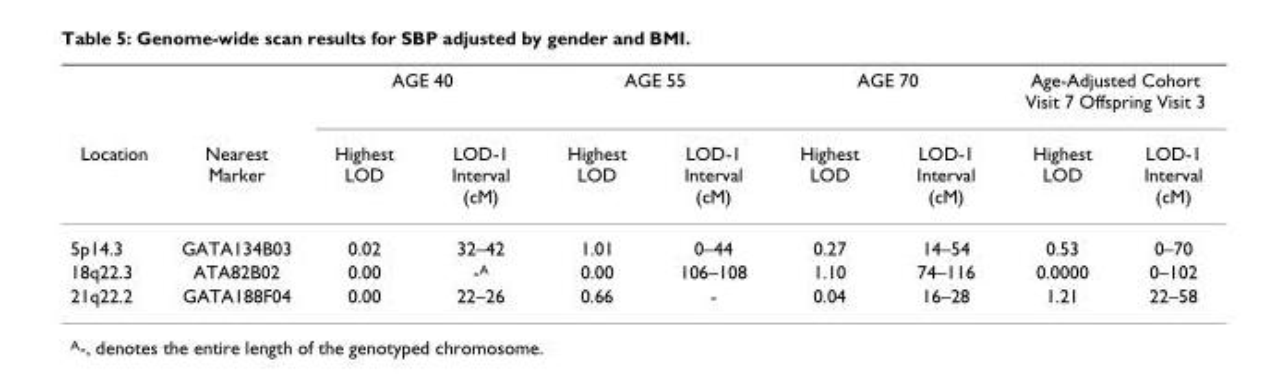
<table><thead><tr><td rowspan="2">Location</td><td rowspan="2">Nearest Marker</td><td colspan="2">AGE 40</td><td colspan="2">AGE 55</td><td colspan="2">AGE 70</td><td colspan="2">Age-Adjusted Cohort Visit 7 Offspring Visit 3</td></tr><tr><td>Highest LOD</td><td>LOD-1 Interval (cM)</td><td>Highest LOD</td><td>LOD-1 Interval (cM)</td><td>Highest LOD</td><td>LOD-1 Interval (cM)</td><td>Highest LOD</td><td>LOD-1 Interval (cM)</td></tr></thead><tbody><tr><td>5p14.3</td><td>GATA134B03</td><td>0.02</td><td>32–42</td><td>1.01</td><td>0–44</td><td>0.27</td><td>14–54</td><td>0.53</td><td>0–70</td></tr><tr><td>18q22.3</td><td>ATA82B02</td><td>0.00</td><td>-A</td><td>0.00</td><td>106–108</td><td>1.10</td><td>74–116</td><td>0.0000</td><td>0–102</td></tr><tr><td>21q22.2</td><td>GATA188F04</td><td>0.00</td><td>22–26</td><td>0.66</td><td>-</td><td>0.04</td><td>16–28</td><td>1.21</td><td>22–58</td></tr></tbody></table>